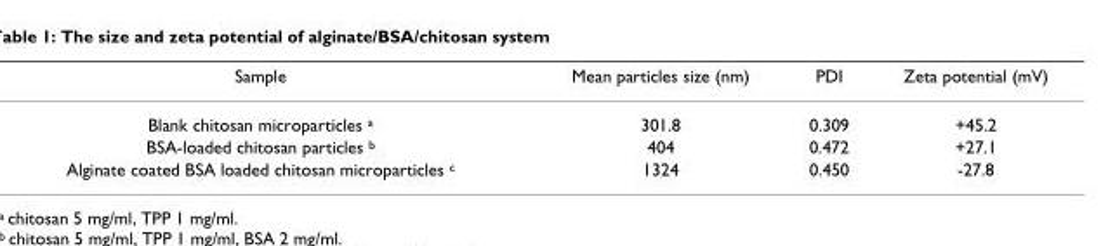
<table><thead><tr><td>Sample</td><td>Mean particles size (nm)</td><td>PDI</td><td>Zeta potential (mV)</td></tr></thead><tbody><tr><td>Blank chitosan microparticles <sup>a</sup></td><td>301.8</td><td>0.309</td><td>+45.2</td></tr><tr><td>BSA-loaded chitosan particles <sup>b</sup></td><td>404</td><td>0.472</td><td>+27.1</td></tr><tr><td>Alginate coated BSA loaded chitosan microparticles <sup>c</sup></td><td>1324</td><td>0.450</td><td>-27.8</td></tr></tbody></table>